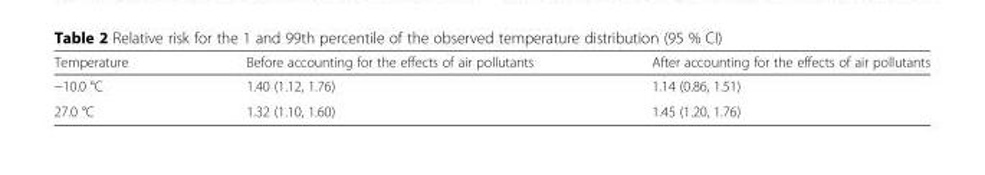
<table><thead><tr><td>Temperature</td><td>Before accounting for the effects of air pollutants</td><td>After accounting for the effects of air pollutants</td></tr></thead><tbody><tr><td>−10.0 °C</td><td>1.40 (1.12, 1.76)</td><td>1.14 (0.86, 1.51)</td></tr><tr><td>27.0 °C</td><td>1.32 (1.10, 1.60)</td><td>1.45 (1.20, 1.76)</td></tr></tbody></table>